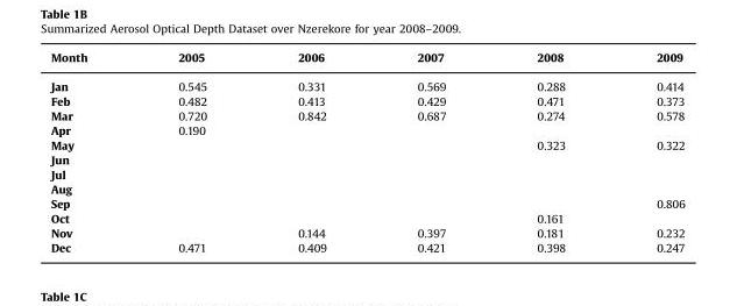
<table><thead><tr><td>Month</td><td>2005</td><td>2006</td><td>2007</td><td>2008</td><td>2009</td></tr></thead><tbody><tr><td>Jan</td><td>0.545</td><td>0.331</td><td>0.569</td><td>0.288</td><td>0.414</td></tr><tr><td>Feb</td><td>0.482</td><td>0.413</td><td>0.429</td><td>0.471</td><td>0.373</td></tr><tr><td>Mar</td><td>0.720</td><td>0.842</td><td>0.687</td><td>0.274</td><td>0.578</td></tr><tr><td>Apr</td><td>0.190</td><td></td><td></td><td></td><td></td></tr><tr><td>May</td><td></td><td></td><td></td><td>0.323</td><td>0.322</td></tr><tr><td colspan="6">Jun</td></tr><tr><td colspan="6">Jul</td></tr><tr><td colspan="6">Aug</td></tr><tr><td>Sep</td><td></td><td></td><td></td><td></td><td>0.806</td></tr><tr><td>Oct</td><td></td><td></td><td></td><td>0.161</td><td></td></tr><tr><td>Nov</td><td></td><td>0.144</td><td>0.397</td><td>0.181</td><td>0.232</td></tr><tr><td>Dec</td><td>0.471</td><td>0.409</td><td>0.421</td><td>0.398</td><td>0.247</td></tr></tbody></table>